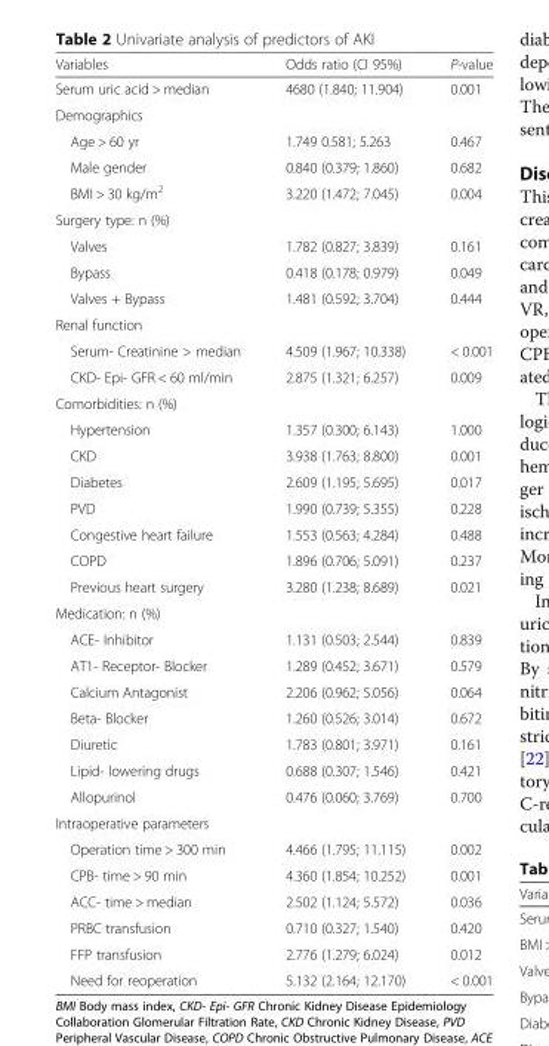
<table><thead><tr><td>Variables</td><td>Odds ratio (CI 95%)</td><td>P-value</td></tr></thead><tbody><tr><td>Serum uric acid &gt; median</td><td>4680 (1.840; 11.904)</td><td>0.001</td></tr><tr><td colspan="3">Demographics</td></tr><tr><td>Age &gt; 60 yr</td><td>1.749 0.581; 5.263</td><td>0.467</td></tr><tr><td>Male gender</td><td>0.840 (0.379; 1.860)</td><td>0.682</td></tr><tr><td>BMI &gt; 30 kg/m<sup>2</sup></td><td>3.220 (1.472; 7.045)</td><td>0.004</td></tr><tr><td colspan="3">Surgery type: n (%)</td></tr><tr><td>Valves</td><td>1.782 (0.827; 3.839)</td><td>0.161</td></tr><tr><td>Bypass</td><td>0.418 (0.178; 0.979)</td><td>0.049</td></tr><tr><td>Valves + Bypass</td><td>1.481 (0.592; 3.704)</td><td>0.444</td></tr><tr><td colspan="3">Renal function</td></tr><tr><td>Serum- Creatinine &gt; median</td><td>4.509 (1.967; 10.338)</td><td>&lt; 0.001</td></tr><tr><td>CKD- Epi- GFR &lt; 60 ml/min</td><td>2.875 (1.321; 6.257)</td><td>0.009</td></tr><tr><td colspan="3">Comorbidities: n (%)</td></tr><tr><td>Hypertension</td><td>1.357 (0.300; 6.143)</td><td>1.000</td></tr><tr><td>CKD</td><td>3.938 (1.763; 8.800)</td><td>0.001</td></tr><tr><td>Diabetes</td><td>2.609 (1.195; 5.695)</td><td>0.017</td></tr><tr><td>PVD</td><td>1.990 (0.739; 5.355)</td><td>0.228</td></tr><tr><td>Congestive heart failure</td><td>1.553 (0.563; 4.284)</td><td>0.488</td></tr><tr><td>COPD</td><td>1.896 (0.706; 5.091)</td><td>0.237</td></tr><tr><td>Previous heart surgery</td><td>3.280 (1.238; 8.689)</td><td>0.021</td></tr><tr><td colspan="3">Medication: n (%)</td></tr><tr><td>ACE- Inhibitor</td><td>1.131 (0.503; 2.544)</td><td>0.839</td></tr><tr><td>AT1- Receptor- Blocker</td><td>1.289 (0.452; 3.671)</td><td>0.579</td></tr><tr><td>Calcium Antagonist</td><td>2.206 (0.962; 5.056)</td><td>0.064</td></tr><tr><td>Βeta- Blocker</td><td>1.260 (0.526; 3.014)</td><td>0.672</td></tr><tr><td>Diuretic</td><td>1.783 (0.801; 3.971)</td><td>0.161</td></tr><tr><td>Lipid- lowering drugs</td><td>0.688 (0.307; 1.546)</td><td>0.421</td></tr><tr><td>Allopurinol</td><td>0.476 (0.060; 3.769)</td><td>0.700</td></tr><tr><td colspan="3">Intraoperative parameters</td></tr><tr><td>Operation time &gt; 300 min</td><td>4.466 (1.795; 11.115)</td><td>0.002</td></tr><tr><td>CPB- time &gt; 90 min</td><td>4.360 (1.854; 10.252)</td><td>0.001</td></tr><tr><td>ACC- time &gt; median</td><td>2.502 (1.124; 5.572)</td><td>0.036</td></tr><tr><td>PRBC transfusion</td><td>0.710 (0.327; 1.540)</td><td>0.420</td></tr><tr><td>FFP transfusion</td><td>2.776 (1.279; 6.024)</td><td>0.012</td></tr><tr><td>Need for reoperation</td><td>5.132 (2.164; 12.170)</td><td>&lt; 0.001</td></tr></tbody></table>